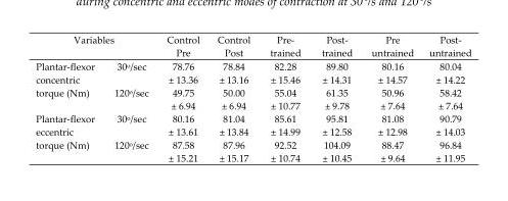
<table><thead><tr><td>Variables</td><td></td><td>Control Pre</td><td>Control Post</td><td>Pre- trained</td><td>Post- trained</td><td>Pre untrained</td><td>Post- untrained</td></tr></thead><tbody><tr><td rowspan="2">Plantar-flexor concentric torque (Nm)</td><td>30°/sec</td><td>78.76 ± 13.36</td><td>78.84 ± 13.16</td><td>82.28 ± 15.46</td><td>89.80 ± 14.31</td><td>80.16 ± 14.57</td><td>80.04 ± 14.22</td></tr><tr><td>120°/sec</td><td>49.75 ± 6.94</td><td>50.00 ± 6.94</td><td>55.04 ± 10.77</td><td>61.35 ± 9.78</td><td>50.96 ± 7.64</td><td>58.42 ± 7.64</td></tr><tr><td rowspan="2">Plantar-flexor eccentric torque (Nm)</td><td>30°/sec</td><td>80.16 ± 13.61</td><td>81.04 ± 13.84</td><td>85.61 ± 14.99</td><td>95.81 ± 12.58</td><td>81.08 ± 12.98</td><td>90.79 ± 14.03</td></tr><tr><td>120°/sec</td><td>87.58 ± 15.21</td><td>87.96 ± 15.17</td><td>92.52 ± 10.74</td><td>104.09 ± 10.45</td><td>88.47 ± 9.64</td><td>96.84 ± 11.95</td></tr></tbody></table>